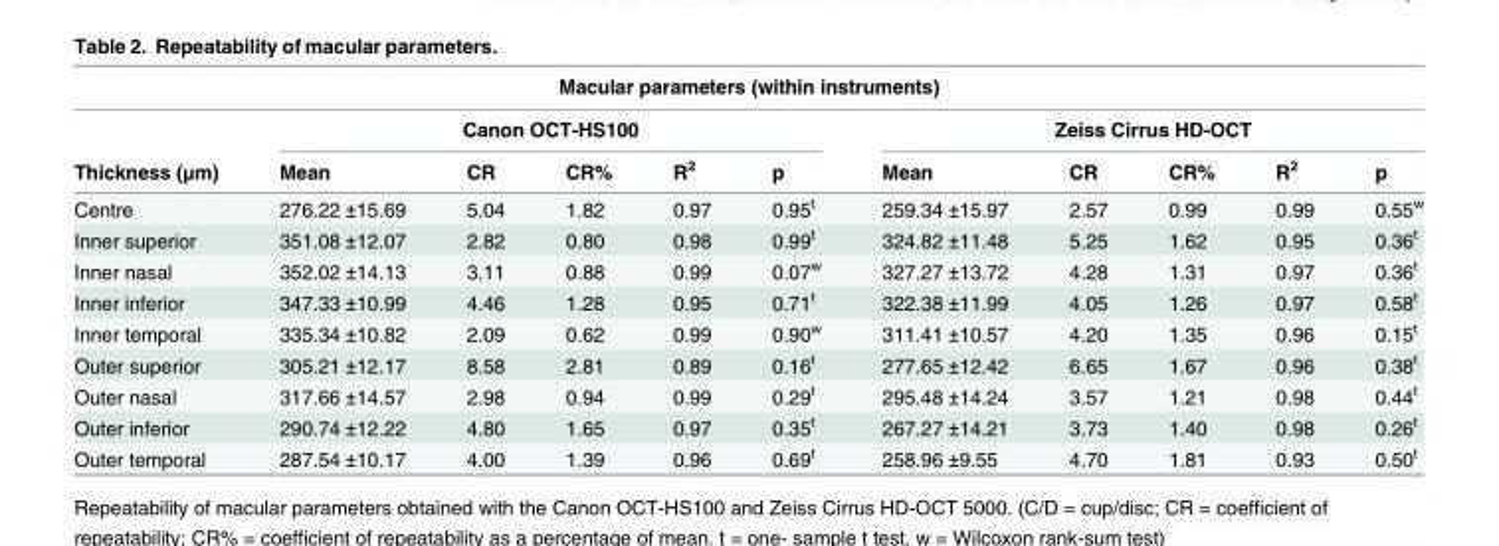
<table><thead><tr><td colspan="11">Macular parameters (within instruments)</td></tr><tr><td rowspan="2">Thickness (μm)</td><td colspan="5">Canon OCT-HS100</td><td colspan="5">Zeiss Cirrus HD-OCT</td></tr><tr><td>Mean</td><td>CR</td><td>CR%</td><td>R<sup>2</sup></td><td>p</td><td>Mean</td><td>CR</td><td>CR%</td><td>R<sup>2</sup></td><td>p</td></tr></thead><tbody><tr><td>Centre</td><td>276.22 ±15.69</td><td>5.04</td><td>1.82</td><td>0.97</td><td>0.95<sup>t</sup></td><td>259.34 ±15.97</td><td>2.57</td><td>0.99</td><td>0.99</td><td>0.55<sup>w</sup></td></tr><tr><td>Inner superior</td><td>351.08 ±12.07</td><td>2.82</td><td>0.80</td><td>0.98</td><td>0.99<sup>t</sup></td><td>324.82 ±11.48</td><td>5.25</td><td>1.62</td><td>0.95</td><td>0.36<sup>t</sup></td></tr><tr><td>Inner nasal</td><td>352.02 ±14.13</td><td>3.11</td><td>0.88</td><td>0.99</td><td>0.07<sup>w</sup></td><td>327.27 ±13.72</td><td>4.28</td><td>1.31</td><td>0.97</td><td>0.36<sup>t</sup></td></tr><tr><td>Inner inferior</td><td>347.33 ±10.99</td><td>4.46</td><td>1.28</td><td>0.95</td><td>0.71<sup>t</sup></td><td>322.38 ±11.99</td><td>4.05</td><td>1.26</td><td>0.97</td><td>0.58<sup>t</sup></td></tr><tr><td>Inner temporal</td><td>335.34 ±10.82</td><td>2.09</td><td>0.62</td><td>0.99</td><td>0.90<sup>w</sup></td><td>311.41 ±10.57</td><td>4.20</td><td>1.35</td><td>0.96</td><td>0.15<sup>t</sup></td></tr><tr><td>Outer superior</td><td>305.21 ±12.17</td><td>8.58</td><td>2.81</td><td>0.89</td><td>0.16<sup>t</sup></td><td>277.65 ±12.42</td><td>6.65</td><td>1.67</td><td>0.96</td><td>0.38<sup>t</sup></td></tr><tr><td>Outer nasal</td><td>317.66 ±14.57</td><td>2.98</td><td>0.94</td><td>0.99</td><td>0.29<sup>t</sup></td><td>295.48 ±14.24</td><td>3.57</td><td>1.21</td><td>0.98</td><td>0.44<sup>t</sup></td></tr><tr><td>Outer inferior</td><td>290.74 ±12.22</td><td>4.80</td><td>1.65</td><td>0.97</td><td>0.35<sup>t</sup></td><td>267.27 ±14.21</td><td>3.73</td><td>1.40</td><td>0.98</td><td>0.26<sup>t</sup></td></tr><tr><td>Outer temporal</td><td>287.54 ±10.17</td><td>4.00</td><td>1.39</td><td>0.96</td><td>0.69<sup>t</sup></td><td>258.96 ±9.55</td><td>4.70</td><td>1.81</td><td>0.93</td><td>0.50<sup>t</sup></td></tr></tbody></table>